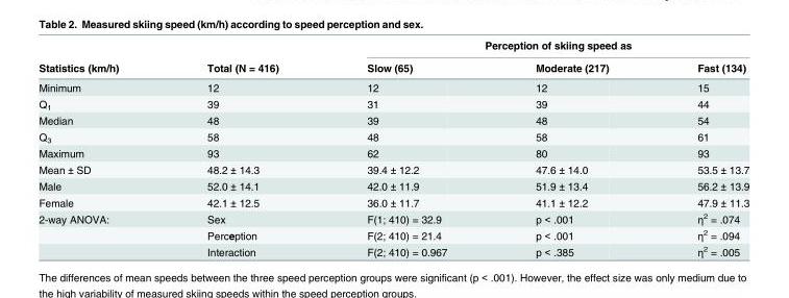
<table><thead><tr><td rowspan="2">Statistics (km/h)</td><td rowspan="2">Total (N = 416)</td><td colspan="3">Perception of skiing speed as</td></tr><tr><td>Slow (65)</td><td>Moderate (217)</td><td>Fast (134)</td></tr></thead><tbody><tr><td>Minimum</td><td>12</td><td>12</td><td>12</td><td>15</td></tr><tr><td>Q<sub>1</sub></td><td>39</td><td>31</td><td>39</td><td>44</td></tr><tr><td>Median</td><td>48</td><td>39</td><td>48</td><td>54</td></tr><tr><td>Q<sub>3</sub></td><td>58</td><td>48</td><td>58</td><td>61</td></tr><tr><td>Maximum</td><td>93</td><td>62</td><td>80</td><td>93</td></tr><tr><td>Mean ± SD</td><td>48.2 ± 14.3</td><td>39.4 ± 12.2</td><td>47.6 ± 14.0</td><td>53.5 ± 13.7</td></tr><tr><td>Male</td><td>52.0 ± 14.1</td><td>42.0 ± 11.9</td><td>51.9 ± 13.4</td><td>56.2 ± 13.9</td></tr><tr><td>Female</td><td>42.1 ± 12.5</td><td>36.0 ± 11.7</td><td>41.1 ± 12.2</td><td>47.9 ± 11.3</td></tr><tr><td rowspan="3">2-way ANOVA:</td><td>Sex</td><td>F(1; 410) = 32.9</td><td>p &lt; .001</td><td>η<sup>2</sup> = .074</td></tr><tr><td>Perception</td><td>F(2; 410) = 21.4</td><td>p &lt; .001</td><td>η<sup>2</sup> = .094</td></tr><tr><td>Interaction</td><td>F(2; 410) = 0.967</td><td>p &lt; .385</td><td>η<sup>2</sup> = .005</td></tr></tbody></table>